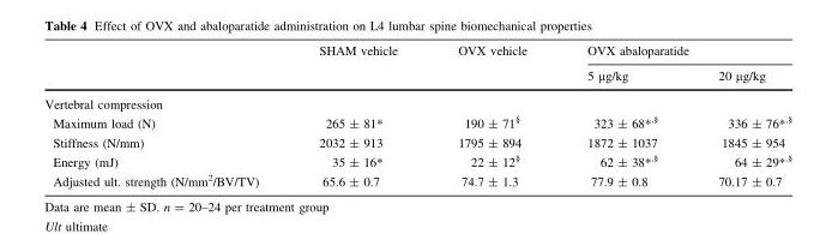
<table><thead><tr><td rowspan="2"></td><td rowspan="2">SHAM vehicle</td><td rowspan="2">OVX vehicle</td><td colspan="2">OVX abaloparatide</td></tr><tr><td>5 µg/kg</td><td>20 µg/kg</td></tr></thead><tbody><tr><td colspan="5">Vertebral compression</td></tr><tr><td>Maximum load (N)</td><td>265 ± 81*</td><td>190 ± 71<sup>§</sup></td><td>323 ± 68*<sup>,§</sup></td><td>336 ± 76*<sup>,§</sup></td></tr><tr><td>Stiffness (N/mm)</td><td>2032 ± 913</td><td>1795 ± 894</td><td>1872 ± 1037</td><td>1845 ± 954</td></tr><tr><td>Energy (mJ)</td><td>35 ± 16*</td><td>22 ± 12<sup>§</sup></td><td>62 ± 38*<sup>,§</sup></td><td>64 ± 29*<sup>,§</sup></td></tr><tr><td>Adjusted ult. strength (N/mm<sup>2</sup>/BV/TV)</td><td>65.6 ± 0.7</td><td>74.7 ± 1.3</td><td>77.9 ± 0.8</td><td>70.17 ± 0.7</td></tr></tbody></table>